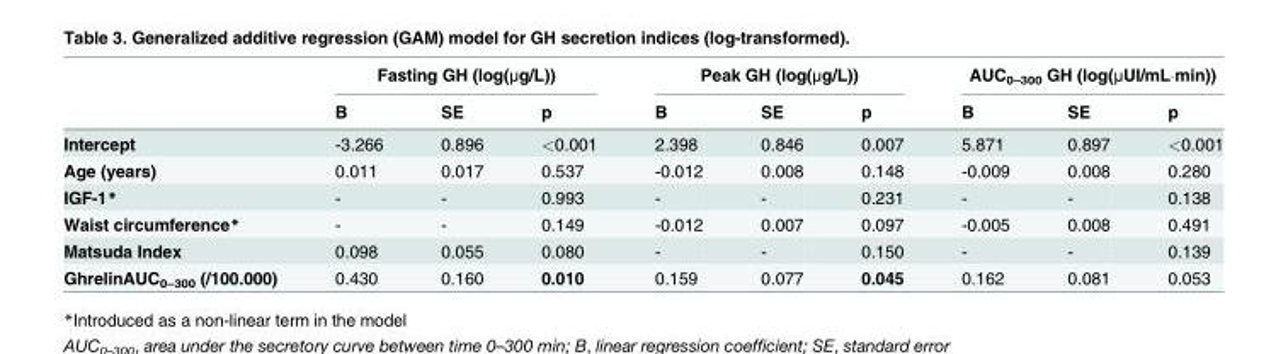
<table><thead><tr><td rowspan="2"></td><td colspan="3">Fasting GH (log(μg/L))</td><td colspan="3">Peak GH (log(μg/L))</td><td colspan="3">AUC<sub>0–300</sub> GH (log(μUI/mL·min))</td></tr><tr><td>B</td><td>SE</td><td>p</td><td>B</td><td>SE</td><td>p</td><td>B</td><td>SE</td><td>p</td></tr></thead><tbody><tr><td>Intercept</td><td>-3.266</td><td>0.896</td><td>&lt;0.001</td><td>2.398</td><td>0.846</td><td>0.007</td><td>5.871</td><td>0.897</td><td>&lt;0.001</td></tr><tr><td>Age (years)</td><td>0.011</td><td>0.017</td><td>0.537</td><td>-0.012</td><td>0.008</td><td>0.148</td><td>-0.009</td><td>0.008</td><td>0.280</td></tr><tr><td>IGF-1*</td><td>-</td><td>-</td><td>0.993</td><td>-</td><td>-</td><td>0.231</td><td>-</td><td>-</td><td>0.138</td></tr><tr><td>Waist circumference*</td><td>-</td><td>-</td><td>0.149</td><td>-0.012</td><td>0.007</td><td>0.097</td><td>-0.005</td><td>0.008</td><td>0.491</td></tr><tr><td>Matsuda Index</td><td>0.098</td><td>0.055</td><td>0.080</td><td>-</td><td>-</td><td>0.150</td><td>-</td><td>-</td><td>0.139</td></tr><tr><td>GhrelinAUC<sub>0–300</sub> (/100.000)</td><td>0.430</td><td>0.160</td><td>0.010</td><td>0.159</td><td>0.077</td><td>0.045</td><td>0.162</td><td>0.081</td><td>0.053</td></tr></tbody></table>